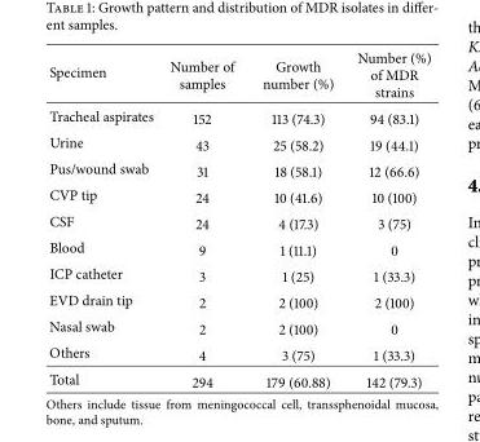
<table><thead><tr><td>Specimen</td><td>Number of samples</td><td>Growth number (%)</td><td>Number (%) of MDR strains</td></tr></thead><tbody><tr><td>Tracheal aspirates</td><td>152</td><td>113 (74.3)</td><td>94 (83.1)</td></tr><tr><td>Urine</td><td>43</td><td>25 (58.2)</td><td>19 (44.1)</td></tr><tr><td>Pus/wound swab</td><td>31</td><td>18 (58.1)</td><td>12 (66.6)</td></tr><tr><td>CVP tip</td><td>24</td><td>10 (41.6)</td><td>10 (100)</td></tr><tr><td>CSF</td><td>24</td><td>4 (17.3)</td><td>3 (75)</td></tr><tr><td>Blood</td><td>9</td><td>1 (11.1)</td><td>0</td></tr><tr><td>ICP catheter</td><td>3</td><td>1 (25)</td><td>1 (33.3)</td></tr><tr><td>EVD drain tip</td><td>2</td><td>2 (100)</td><td>2 (100)</td></tr><tr><td>Nasal swab</td><td>2</td><td>2 (100)</td><td>0</td></tr><tr><td>Others</td><td>4</td><td>3 (75)</td><td>1 (33.3)</td></tr><tr><td>Total</td><td>294</td><td>179 (60.88)</td><td>142 (79.3)</td></tr></tbody></table>